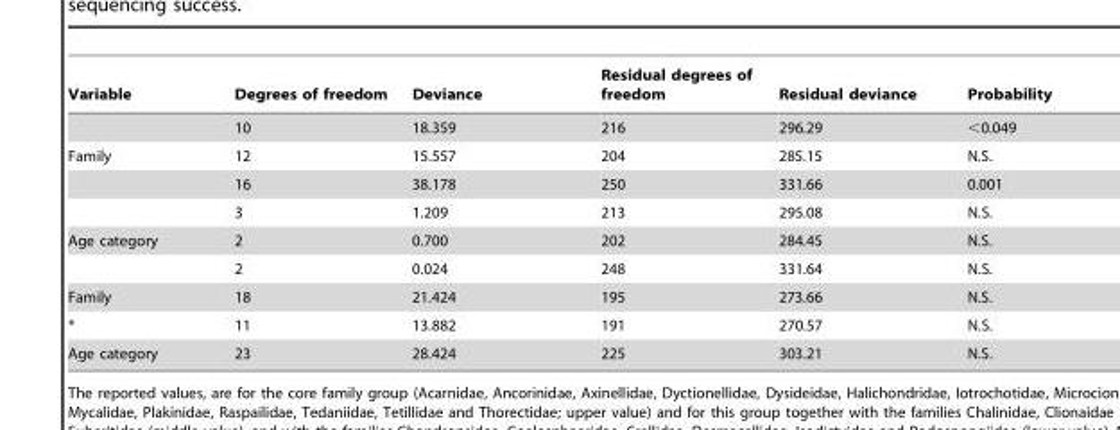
<table><thead><tr><td>Variable</td><td>Degrees of freedom</td><td>Deviance</td><td>Residual degrees of freedom</td><td>Residual deviance</td><td>Probability</td></tr></thead><tbody><tr><td></td><td>10</td><td>18.359</td><td>216</td><td>296.29</td><td>&lt;0.049</td></tr><tr><td rowspan="3">Family</td><td>12</td><td>15.557</td><td>204</td><td>285.15</td><td>N.S.</td></tr><tr><td>16</td><td>38.178</td><td>250</td><td>331.66</td><td>0.001</td></tr><tr><td>3</td><td>1.209</td><td>213</td><td>295.08</td><td>N.S.</td></tr><tr><td rowspan="2">Age category</td><td>2</td><td>0.700</td><td>202</td><td>284.45</td><td>N.S.</td></tr><tr><td>2</td><td>0.024</td><td>248</td><td>331.64</td><td>N.S.</td></tr><tr><td>Family</td><td>18</td><td>21.424</td><td>195</td><td>273.66</td><td>N.S.</td></tr><tr><td>*</td><td>11</td><td>13.882</td><td>191</td><td>270.57</td><td>N.S.</td></tr><tr><td>Age category</td><td>23</td><td>28.424</td><td>225</td><td>303.21</td><td>N.S.</td></tr></tbody></table>